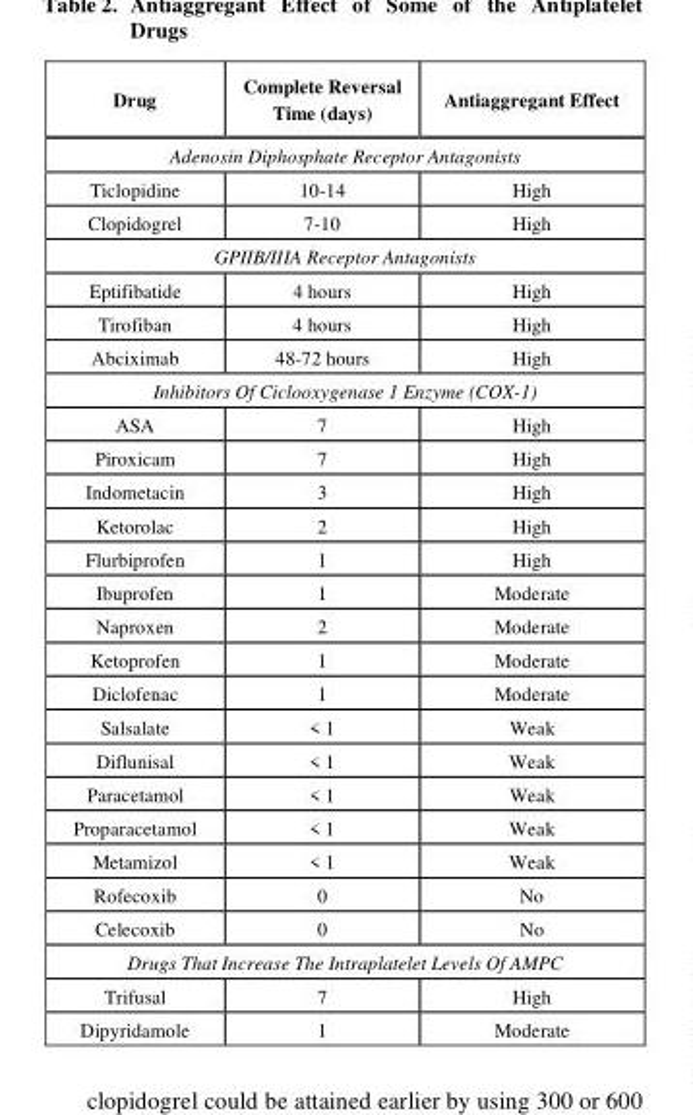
<table><thead><tr><td>Drug</td><td>Complete Reversal Time (days)</td><td>Antiaggregant Effect</td></tr></thead><tbody><tr><td colspan="3">Adenosin Diphosphate Receptor Antagonists</td></tr><tr><td>Ticlopidine</td><td>10-14</td><td>High</td></tr><tr><td>Clopidogrel</td><td>7-10</td><td>High</td></tr><tr><td colspan="3">GPIIB/IIIA Receptor Antagonists</td></tr><tr><td>Eptifibatide</td><td>4 hours</td><td>High</td></tr><tr><td>Tirofiban</td><td>4 hours</td><td>High</td></tr><tr><td>Abciximab</td><td>48-72 hours</td><td>High</td></tr><tr><td colspan="3">Inhibitors Of Ciclooxygenase 1 Enzyme (COX-1)</td></tr><tr><td>ASA</td><td>7</td><td>High</td></tr><tr><td>Piroxicam</td><td>7</td><td>High</td></tr><tr><td>Indometacin</td><td>3</td><td>High</td></tr><tr><td>Ketorolac</td><td>2</td><td>High</td></tr><tr><td>Flurbiprofen</td><td>1</td><td>High</td></tr><tr><td>Ibuprofen</td><td>1</td><td>Moderate</td></tr><tr><td>Naproxen</td><td>2</td><td>Moderate</td></tr><tr><td>Ketoprofen</td><td>1</td><td>Moderate</td></tr><tr><td>Diclofenac</td><td>1</td><td>Moderate</td></tr><tr><td>Salsalate</td><td>&lt; 1</td><td>Weak</td></tr><tr><td>Diflunisal</td><td>&lt; 1</td><td>Weak</td></tr><tr><td>Paracetamol</td><td>&lt; 1</td><td>Weak</td></tr><tr><td>Proparacetamol</td><td>&lt; 1</td><td>Weak</td></tr><tr><td>Metamizol</td><td>&lt; 1</td><td>Weak</td></tr><tr><td>Rofecoxib</td><td>0</td><td>No</td></tr><tr><td>Celecoxib</td><td>0</td><td>No</td></tr><tr><td colspan="3">Drugs That Increase The Intraplatelet Levels Of AMPC</td></tr><tr><td>Trifusal</td><td>7</td><td>High</td></tr><tr><td>Dipyridamole</td><td>1</td><td>Moderate</td></tr></tbody></table>